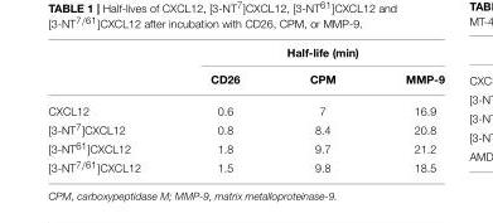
<table><thead><tr><td rowspan="2"></td><td colspan="3">Half-life (min)</td></tr><tr><td>CD26</td><td>CPM</td><td>MMP-9</td></tr></thead><tbody><tr><td>CXCL12</td><td>0.6</td><td>7</td><td>16.9</td></tr><tr><td>[3-NT<sup>7</sup>]CXCL12</td><td>0.8</td><td>8.4</td><td>20.8</td></tr><tr><td>[3-NT<sup>61</sup>]CXCL12</td><td>1.8</td><td>9.7</td><td>21.2</td></tr><tr><td>[3-NT<sup>7/61</sup>]CXCL12</td><td>1.5</td><td>9.8</td><td>18.5</td></tr></tbody></table>